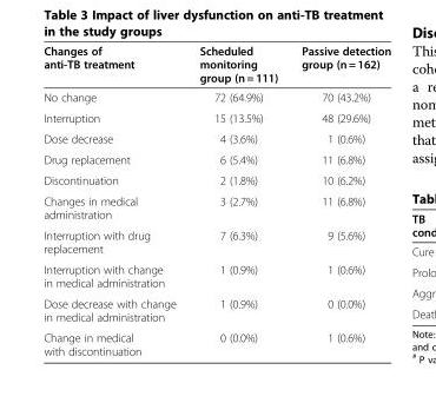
<table><thead><tr><td>Changes of anti-TB treatment</td><td>Scheduled monitoring group (n = 111)</td><td>Passive detection group (n = 162)</td></tr></thead><tbody><tr><td>No change</td><td>72 (64.9%)</td><td>70 (43.2%)</td></tr><tr><td>Interruption</td><td>15 (13.5%)</td><td>48 (29.6%)</td></tr><tr><td>Dose decrease</td><td>4 (3.6%)</td><td>1 (0.6%)</td></tr><tr><td>Drug replacement</td><td>6 (5.4%)</td><td>11 (6.8%)</td></tr><tr><td>Discontinuation</td><td>2 (1.8%)</td><td>10 (6.2%)</td></tr><tr><td>Changes in medical administration</td><td>3 (2.7%)</td><td>11 (6.8%)</td></tr><tr><td>Interruption with drug replacement</td><td>7 (6.3%)</td><td>9 (5.6%)</td></tr><tr><td>Interruption with change in medical administration</td><td>1 (0.9%)</td><td>1 (0.6%)</td></tr><tr><td>Dose decrease with change in medical administration</td><td>1 (0.9%)</td><td>0 (0.0%)</td></tr><tr><td>Change in medical with discontinuation</td><td>0 (0.0%)</td><td>1 (0.6%)</td></tr></tbody></table>